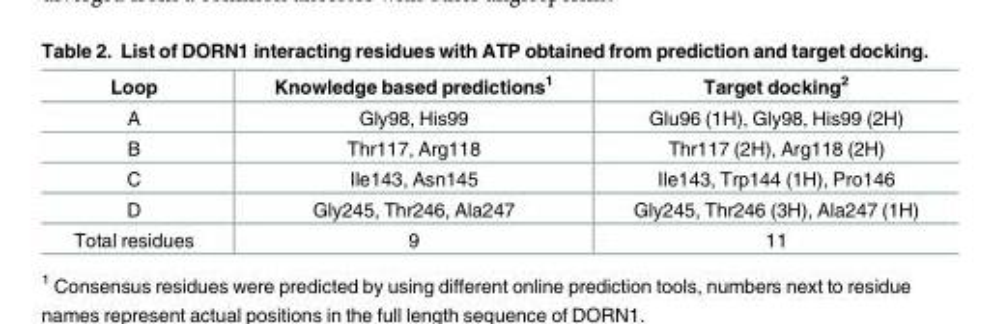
<table><thead><tr><td>Loop</td><td>Knowledge based predictions<sup>1</sup></td><td>Target docking<sup>2</sup></td></tr></thead><tbody><tr><td>A</td><td>Gly98, His99</td><td>Glu96 (1H), Gly98, His99 (2H)</td></tr><tr><td>B</td><td>Thr117, Arg118</td><td>Thr117 (2H), Arg118 (2H)</td></tr><tr><td>C</td><td>Ile143, Asn145</td><td>Ile143, Trp144 (1H), Pro146</td></tr><tr><td>D</td><td>Gly245, Thr246, Ala247</td><td>Gly245, Thr246 (3H), Ala247 (1H)</td></tr><tr><td>Total residues</td><td>9</td><td>11</td></tr></tbody></table>